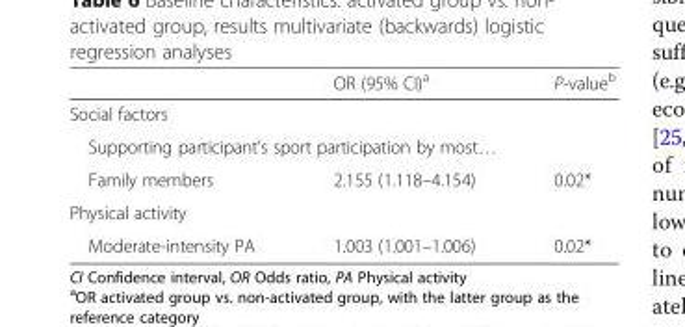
<table><thead><tr><td></td><td>OR (95% CI)<sup>a</sup></td><td>P-value<sup>b</sup></td></tr></thead><tbody><tr><td colspan="3">Social factors</td></tr><tr><td colspan="3">Supporting participant’s sport participation by most…</td></tr><tr><td>Family members</td><td>2.155 (1.118–4.154)</td><td>0.02*</td></tr><tr><td colspan="3">Physical activity</td></tr><tr><td>Moderate-intensity PA</td><td>1.003 (1.001–1.006)</td><td>0.02*</td></tr></tbody></table>